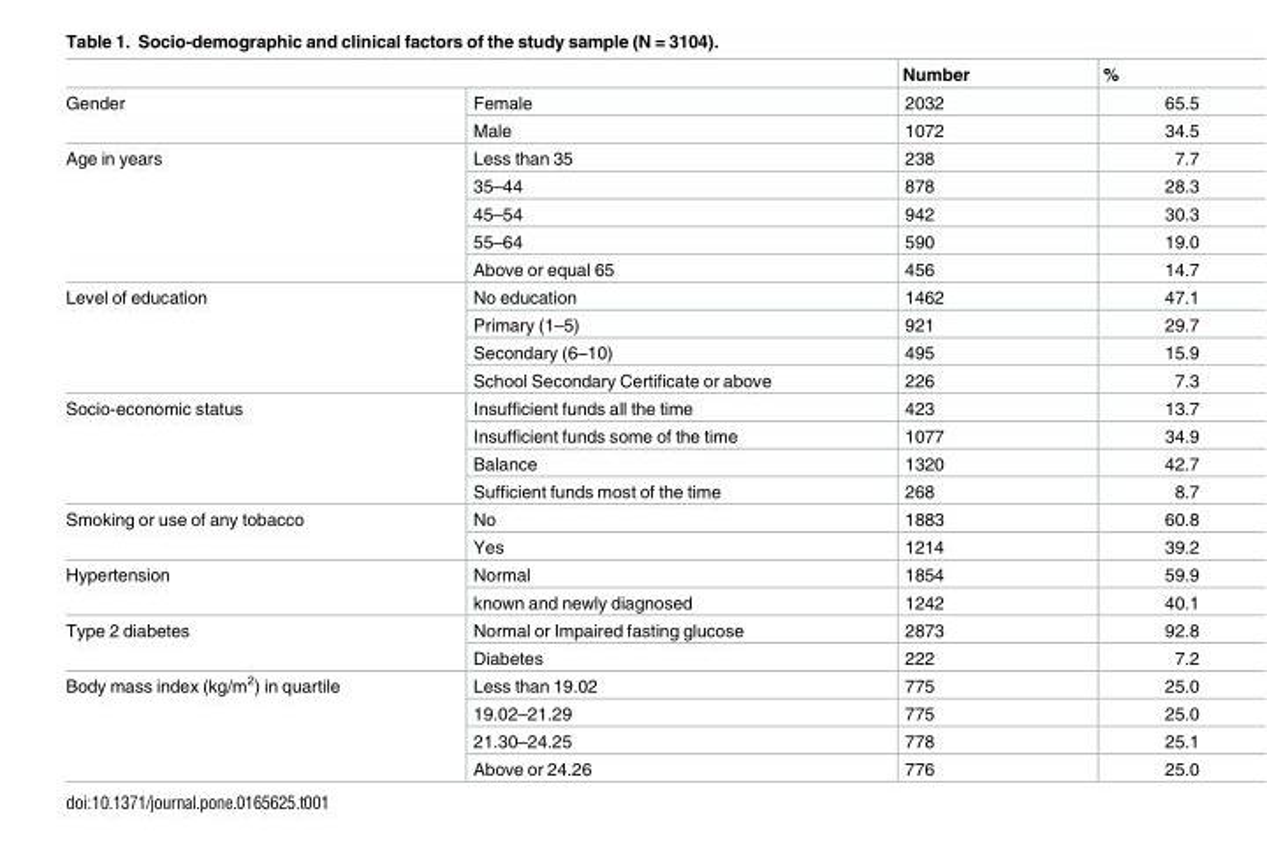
<table><thead><tr><td></td><td></td><td>Number</td><td>%</td></tr></thead><tbody><tr><td rowspan="2">Gender</td><td>Female</td><td>2032</td><td>65.5</td></tr><tr><td>Male</td><td>1072</td><td>34.5</td></tr><tr><td rowspan="5">Age in years</td><td>Less than 35</td><td>238</td><td>7.7</td></tr><tr><td>35–44</td><td>878</td><td>28.3</td></tr><tr><td>45–54</td><td>942</td><td>30.3</td></tr><tr><td>55–64</td><td>590</td><td>19.0</td></tr><tr><td>Above or equal 65</td><td>456</td><td>14.7</td></tr><tr><td rowspan="4">Level of education</td><td>No education</td><td>1462</td><td>47.1</td></tr><tr><td>Primary (1–5)</td><td>921</td><td>29.7</td></tr><tr><td>Secondary (6–10)</td><td>495</td><td>15.9</td></tr><tr><td>School Secondary Certificate or above</td><td>226</td><td>7.3</td></tr><tr><td rowspan="4">Socio-economic status</td><td>Insufficient funds all the time</td><td>423</td><td>13.7</td></tr><tr><td>Insufficient funds some of the time</td><td>1077</td><td>34.9</td></tr><tr><td>Balance</td><td>1320</td><td>42.7</td></tr><tr><td>Sufficient funds most of the time</td><td>268</td><td>8.7</td></tr><tr><td rowspan="2">Smoking or use of any tobacco</td><td>No</td><td>1883</td><td>60.8</td></tr><tr><td>Yes</td><td>1214</td><td>39.2</td></tr><tr><td rowspan="2">Hypertension</td><td>Normal</td><td>1854</td><td>59.9</td></tr><tr><td>known and newly diagnosed</td><td>1242</td><td>40.1</td></tr><tr><td rowspan="2">Type 2 diabetes</td><td>Normal or Impaired fasting glucose</td><td>2873</td><td>92.8</td></tr><tr><td>Diabetes</td><td>222</td><td>7.2</td></tr><tr><td rowspan="4">Body mass index (kg/m<sup>2</sup>) in quartile</td><td>Less than 19.02</td><td>775</td><td>25.0</td></tr><tr><td>19.02–21.29</td><td>775</td><td>25.0</td></tr><tr><td>21.30–24.25</td><td>778</td><td>25.1</td></tr><tr><td>Above or 24.26</td><td>776</td><td>25.0</td></tr></tbody></table>